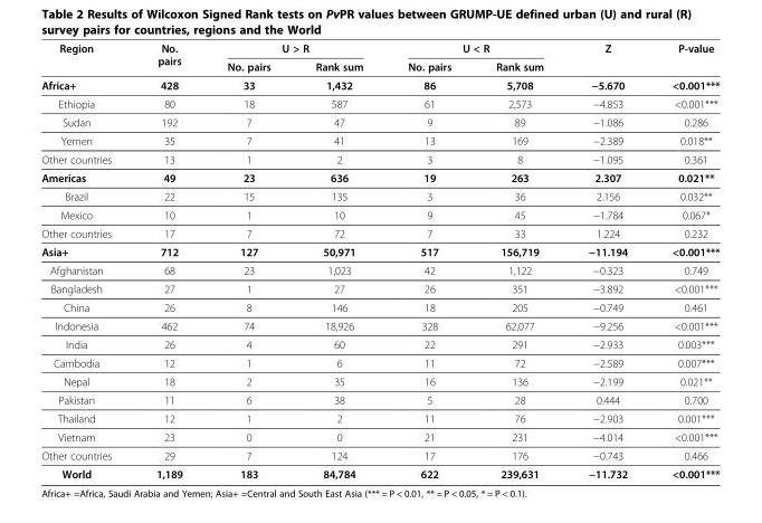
<table><thead><tr><td rowspan="2">Region</td><td rowspan="2">No. pairs</td><td colspan="2">U &gt; R</td><td colspan="2">U &lt; R</td><td rowspan="2">Z</td><td rowspan="2">P-value</td></tr><tr><td>No. pairs</td><td>Rank sum</td><td>No. pairs</td><td>Rank sum</td></tr></thead><tbody><tr><td>Africa+</td><td>428</td><td>33</td><td>1,432</td><td>86</td><td>5,708</td><td>−5.670</td><td>&lt;0.001***</td></tr><tr><td>Ethiopia</td><td>80</td><td>18</td><td>587</td><td>61</td><td>2,573</td><td>−4.853</td><td>&lt;0.001***</td></tr><tr><td>Sudan</td><td>192</td><td>7</td><td>47</td><td>9</td><td>89</td><td>−1.086</td><td>0.286</td></tr><tr><td>Yemen</td><td>35</td><td>7</td><td>41</td><td>13</td><td>169</td><td>−2.389</td><td>0.018**</td></tr><tr><td>Other countries</td><td>13</td><td>1</td><td>2</td><td>3</td><td>8</td><td>−1.095</td><td>0.361</td></tr><tr><td>Americas</td><td>49</td><td>23</td><td>636</td><td>19</td><td>263</td><td>2.307</td><td>0.021**</td></tr><tr><td>Brazil</td><td>22</td><td>15</td><td>135</td><td>3</td><td>36</td><td>2.156</td><td>0.032**</td></tr><tr><td>Mexico</td><td>10</td><td>1</td><td>10</td><td>9</td><td>45</td><td>−1.784</td><td>0.067*</td></tr><tr><td>Other countries</td><td>17</td><td>7</td><td>72</td><td>7</td><td>33</td><td>1.224</td><td>0.232</td></tr><tr><td>Asia+</td><td>712</td><td>127</td><td>50,971</td><td>517</td><td>156,719</td><td>−11.194</td><td>&lt;0.001***</td></tr><tr><td>Afghanistan</td><td>68</td><td>23</td><td>1,023</td><td>42</td><td>1,122</td><td>−0.323</td><td>0.749</td></tr><tr><td>Bangladesh</td><td>27</td><td>1</td><td>27</td><td>26</td><td>351</td><td>−3.892</td><td>&lt;0.001***</td></tr><tr><td>China</td><td>26</td><td>8</td><td>146</td><td>18</td><td>205</td><td>−0.749</td><td>0.461</td></tr><tr><td>Indonesia</td><td>462</td><td>74</td><td>18,926</td><td>328</td><td>62,077</td><td>−9.256</td><td>&lt;0.001***</td></tr><tr><td>India</td><td>26</td><td>4</td><td>60</td><td>22</td><td>291</td><td>−2.933</td><td>0.003***</td></tr><tr><td>Cambodia</td><td>12</td><td>1</td><td>6</td><td>11</td><td>72</td><td>−2.589</td><td>0.007***</td></tr><tr><td>Nepal</td><td>18</td><td>2</td><td>35</td><td>16</td><td>136</td><td>−2.199</td><td>0.021**</td></tr><tr><td>Pakistan</td><td>11</td><td>6</td><td>38</td><td>5</td><td>28</td><td>0.444</td><td>0.700</td></tr><tr><td>Thailand</td><td>12</td><td>1</td><td>2</td><td>11</td><td>76</td><td>−2.903</td><td>0.001***</td></tr><tr><td>Vietnam</td><td>23</td><td>0</td><td>0</td><td>21</td><td>231</td><td>−4.014</td><td>&lt;0.001***</td></tr><tr><td>Other countries</td><td>29</td><td>7</td><td>124</td><td>17</td><td>176</td><td>−0.743</td><td>0.466</td></tr><tr><td>World</td><td>1,189</td><td>183</td><td>84,784</td><td>622</td><td>239,631</td><td>−11.732</td><td>&lt;0.001***</td></tr></tbody></table>